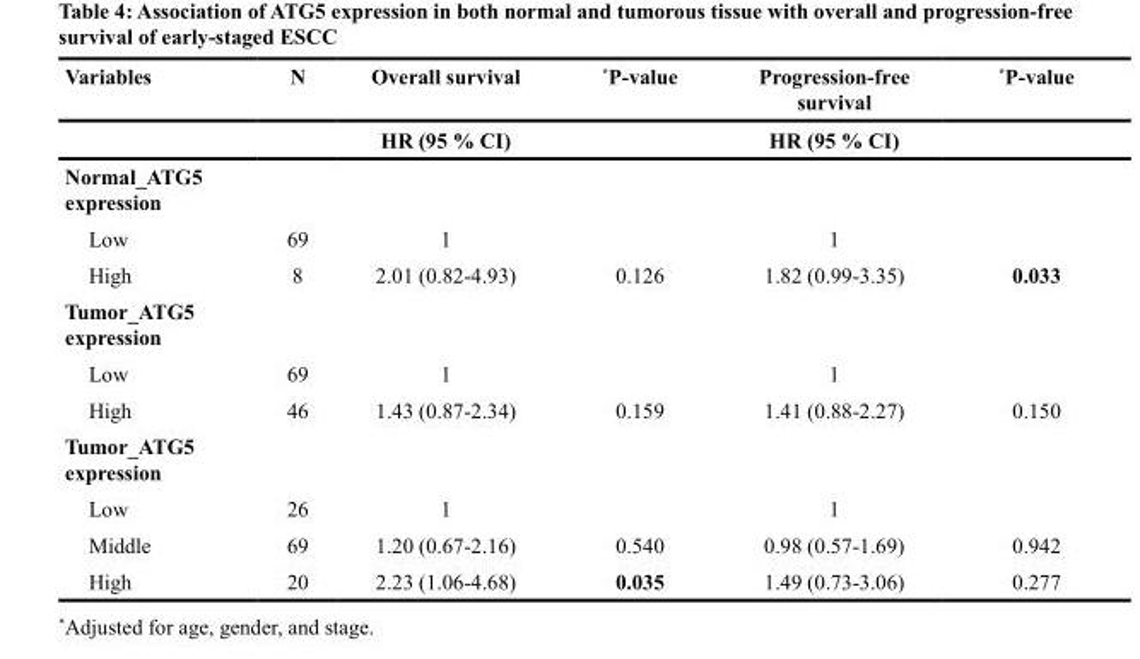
<table><thead><tr><td rowspan="2">Variables</td><td rowspan="2">N</td><td rowspan="2">Overall survival HR (95 % CI)</td><td rowspan="2">*P-value</td><td rowspan="2">Progression-free survival HR (95 % CI)</td><td rowspan="2">*P-value</td></tr><tr></tr></thead><tbody><tr><td colspan="6">Normal_ATG5 expression</td></tr><tr><td>Low</td><td>69</td><td>1</td><td></td><td>1</td><td></td></tr><tr><td>High</td><td>8</td><td>2.01 (0.82-4.93)</td><td>0.126</td><td>1.82 (0.99-3.35)</td><td>0.033</td></tr><tr><td colspan="6">Tumor_ATG5 expression</td></tr><tr><td>Low</td><td>69</td><td>1</td><td></td><td>1</td><td></td></tr><tr><td>High</td><td>46</td><td>1.43 (0.87-2.34)</td><td>0.159</td><td>1.41 (0.88-2.27)</td><td>0.150</td></tr><tr><td colspan="6">Tumor_ATG5 expression</td></tr><tr><td>Low</td><td>26</td><td>1</td><td></td><td>1</td><td></td></tr><tr><td>Middle</td><td>69</td><td>1.20 (0.67-2.16)</td><td>0.540</td><td>0.98 (0.57-1.69)</td><td>0.942</td></tr><tr><td>High</td><td>20</td><td>2.23 (1.06-4.68)</td><td>0.035</td><td>1.49 (0.73-3.06)</td><td>0.277</td></tr></tbody></table>